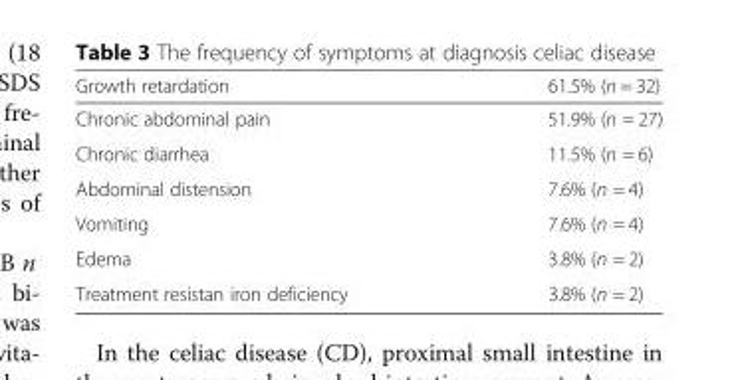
<table><thead><tr><td>Growth retardation</td><td>61.5% (n = 32)</td></tr></thead><tbody><tr><td>Chronic abdominal pain</td><td>51.9% (n = 27)</td></tr><tr><td>Chronic diarrhea</td><td>11.5% (n = 6)</td></tr><tr><td>Abdominal distension</td><td>7.6% (n = 4)</td></tr><tr><td>Vomiting</td><td>7.6% (n = 4)</td></tr><tr><td>Edema</td><td>3.8% (n = 2)</td></tr><tr><td>Treatment resistan iron deficiency</td><td>3.8% (n = 2)</td></tr></tbody></table>